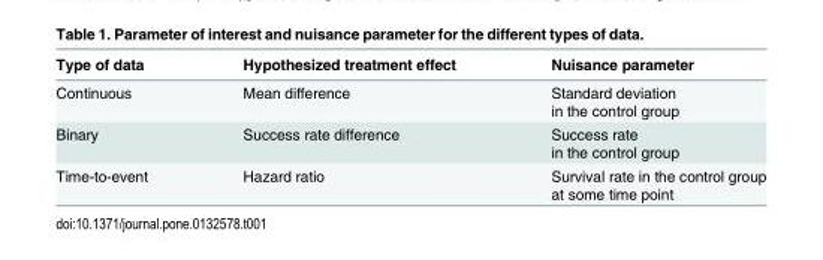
<table><thead><tr><td>Type of data</td><td>Hypothesized treatment effect</td><td>Nuisance parameter</td></tr></thead><tbody><tr><td>Continuous</td><td>Mean difference</td><td>Standard deviation in the control group</td></tr><tr><td>Binary</td><td>Success rate difference</td><td>Success rate in the control group</td></tr><tr><td>Time-to-event</td><td>Hazard ratio</td><td>Survival rate in the control group at some time point</td></tr></tbody></table>